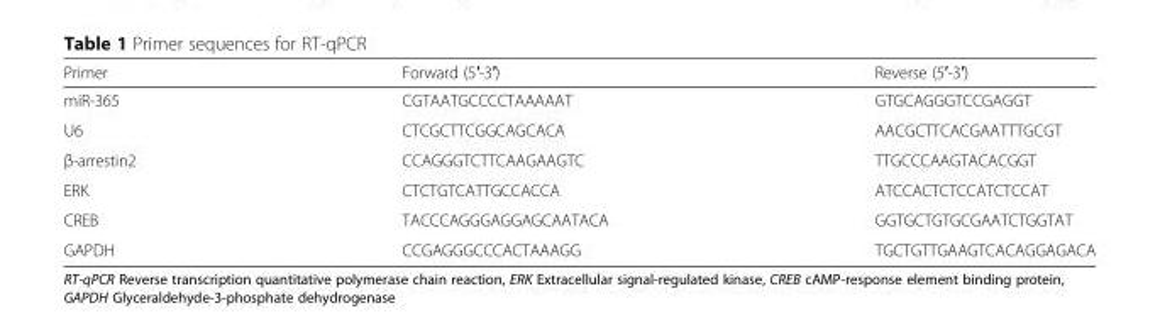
<table><thead><tr><td>Primer</td><td>Forward (5′-3′)</td><td>Reverse (5′-3′)</td></tr></thead><tbody><tr><td>miR-365</td><td>CGTAATGCCCCTAAAAAT</td><td>GTGCAGGGTCCGAGGT</td></tr><tr><td>U6</td><td>CTCGCTTCGGCAGCACA</td><td>AACGCTTCACGAATTTGCGT</td></tr><tr><td>β-arrestin2</td><td>CCAGGGTCTTCAAGAAGTC</td><td>TTGCCCAAGTACACGGT</td></tr><tr><td>ERK</td><td>CTCTGTCATTGCCACCA</td><td>ATCCACTCTCCATCTCCAT</td></tr><tr><td>CREB</td><td>TACCCAGGGAGGAGCAATACA</td><td>GGTGCTGTGCGAATCTGGTAT</td></tr><tr><td>GAPDH</td><td>CCGAGGGCCCACTAAAGG</td><td>TGCTGTTGAAGTCACAGGAGACA</td></tr></tbody></table>